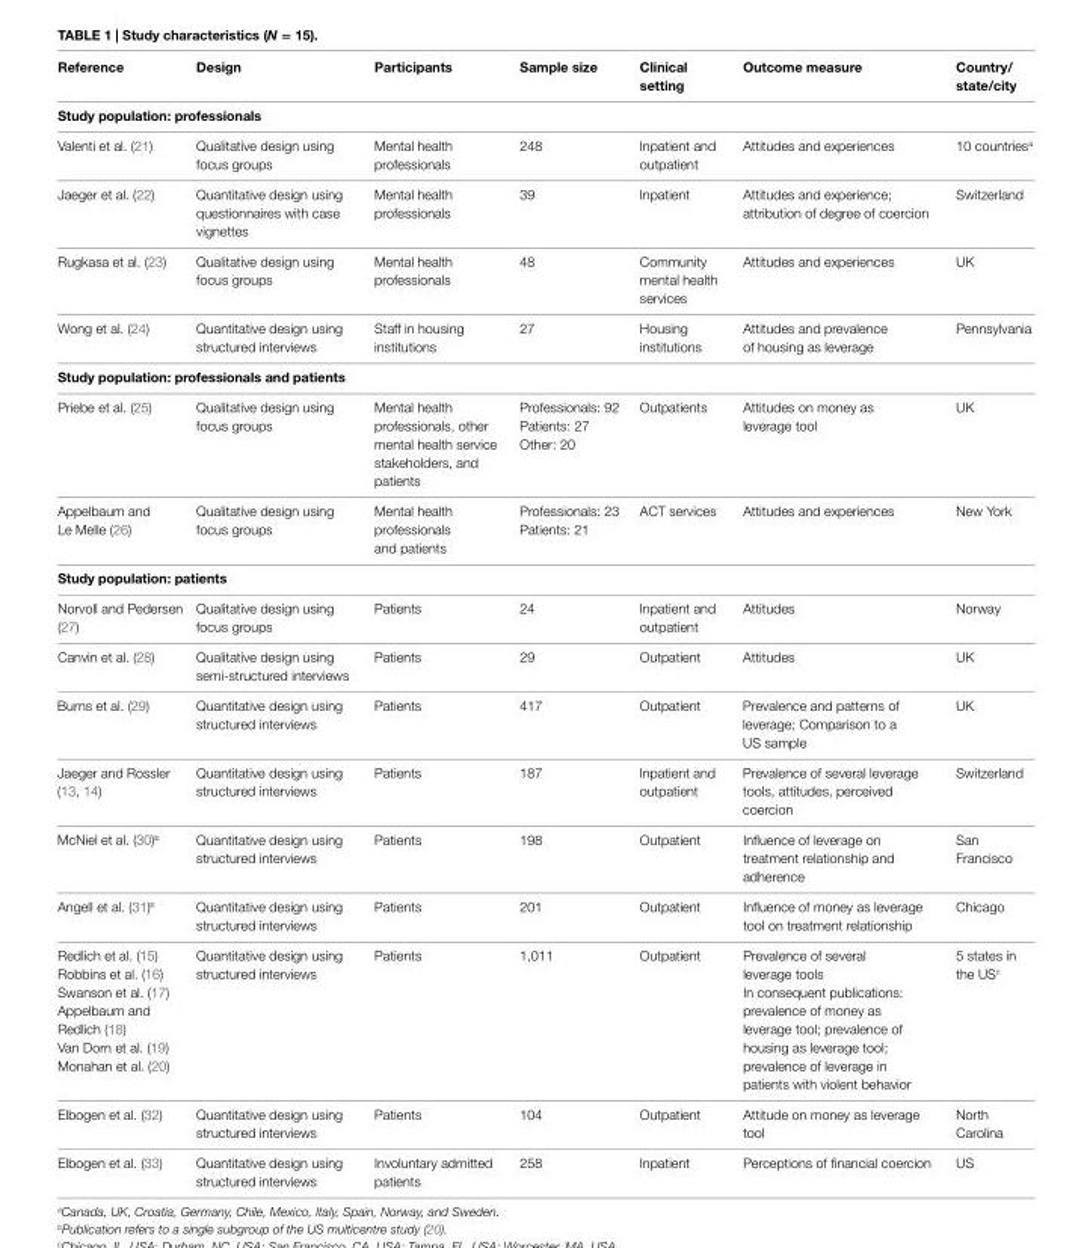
<table><thead><tr><td>Reference</td><td>Design</td><td>Participants</td><td>Sample size</td><td>Clinical setting</td><td>Outcome measure</td><td>Country/ state/city</td></tr></thead><tbody><tr><td colspan="7">Study population: professionals</td></tr><tr><td>Valenti et al. (21)</td><td>Qualitative design using focus groups</td><td>Mental health professionals</td><td>248</td><td>Inpatient and outpatient</td><td>Attitudes and experiences</td><td>10 countries<sup>a</sup></td></tr><tr><td>Jaeger et al. (22)</td><td>Quantitative design using questionnaires with case vignettes</td><td>Mental health professionals</td><td>39</td><td>Inpatient</td><td>Attitudes and experience; attribution of degree of coercion</td><td>Switzerland</td></tr><tr><td>Rugkasa et al. (23)</td><td>Qualitative design using focus groups</td><td>Mental health professionals</td><td>48</td><td>Community mental health services</td><td>Attitudes and experiences</td><td>UK</td></tr><tr><td>Wong et al. (24)</td><td>Quantitative design using structured interviews</td><td>Staff in housing institutions</td><td>27</td><td>Housing institutions</td><td>Attitudes and prevalence of housing as leverage</td><td>Pennsylvania</td></tr><tr><td colspan="7">Study population: professionals and patients</td></tr><tr><td>Priebe et al. (25)</td><td>Qualitative design using focus groups</td><td>Mental health professionals, other mental health service stakeholders, and patients</td><td>Professionals: 92 Patients: 27 Other: 20</td><td>Outpatients</td><td>Attitudes on money as leverage tool</td><td>UK</td></tr><tr><td>Appelbaum and Le Melle (26)</td><td>Qualitative design using focus groups</td><td>Mental health professionals and patients</td><td>Professionals: 23 Patients: 21</td><td>ACT services</td><td>Attitudes and experiences</td><td>New York</td></tr><tr><td colspan="7">Study population: patients</td></tr><tr><td>Norvoll and Pedersen (27)</td><td>Qualitative design using focus groups</td><td>Patients</td><td>24</td><td>Inpatient and outpatient</td><td>Attitudes</td><td>Norway</td></tr><tr><td>Canvin et al. (28)</td><td>Qualitative design using semi-structured interviews</td><td>Patients</td><td>29</td><td>Outpatient</td><td>Attitudes</td><td>UK</td></tr><tr><td>Burns et al. (29)</td><td>Quantitative design using structured interviews</td><td>Patients</td><td>417</td><td>Outpatient</td><td>Prevalence and patterns of leverage; Comparison to a US sample</td><td>UK</td></tr><tr><td>Jaeger and Rossler (13, 14)</td><td>Quantitative design using structured interviews</td><td>Patients</td><td>187</td><td>Inpatient and outpatient</td><td>Prevalence of several leverage tools, attitudes, perceived coercion</td><td>Switzerland</td></tr><tr><td>McNiel et al. (30)<sup>b</sup></td><td>Quantitative design using structured interviews</td><td>Patients</td><td>198</td><td>Outpatient</td><td>Influence of leverage on treatment relationship and adherence</td><td>San Francisco</td></tr><tr><td>Angell et al. (31)<sup>b</sup></td><td>Quantitative design using structured interviews</td><td>Patients</td><td>201</td><td>Outpatient</td><td>Influence of money as leverage tool on treatment relationship</td><td>Chicago</td></tr><tr><td>Redlich et al. (15) Robbins et al. (16) Swanson et al. (17) Appelbaum and Redlich (18) Van Dorn et al. (19) Monahan et al. (20)</td><td>Quantitative design using structured interviews</td><td>Patients</td><td>1,011</td><td>Outpatient</td><td>Prevalence of several leverage tools In consequent publications: prevalence of money as leverage tool; prevalence of housing as leverage tool; prevalence of leverage in patients with violent behavior</td><td>5 states in the US<sup>c</sup></td></tr><tr><td>Elbogen et al. (32)</td><td>Quantitative design using structured interviews</td><td>Patients</td><td>104</td><td>Outpatient</td><td>Attitude on money as leverage tool</td><td>North Carolina</td></tr><tr><td>Elbogen et al. (33)</td><td>Quantitative design using structured interviews</td><td>Involuntary admitted patients</td><td>258</td><td>Inpatient</td><td>Perceptions of financial coercion</td><td>US</td></tr></tbody></table>